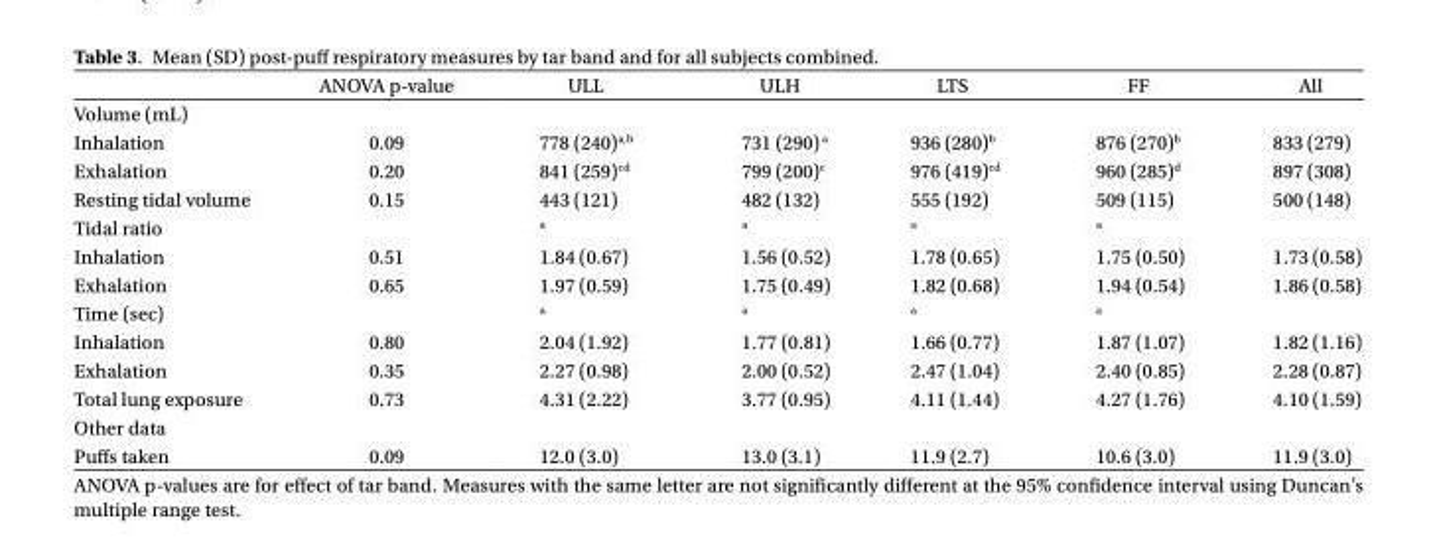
<table><thead><tr><td></td><td>ANOVA p-value</td><td>ULL</td><td>ULH</td><td>LTS</td><td>FF</td><td>All</td></tr></thead><tbody><tr><td colspan="7">Volume (mL)</td></tr><tr><td>Inhalation</td><td>0.09</td><td>778 (240)<sup>a,b</sup></td><td>731 (290) <sup>a</sup></td><td>936 (280)<sup>b</sup></td><td>876 (270)<sup>b</sup></td><td>833 (279)</td></tr><tr><td>Exhalation</td><td>0.20</td><td>841 (259)<sup>cd</sup></td><td>799 (200)<sup>c</sup></td><td>976 (419)<sup>cd</sup></td><td>960 (285)<sup>d</sup></td><td>897 (308)</td></tr><tr><td>Resting tidal volume</td><td>0.15</td><td>443 (121)</td><td>482 (132)</td><td>555 (192)</td><td>509 (115)</td><td>500 (148)</td></tr><tr><td>Tidal ratio</td><td></td><td><sup>a</sup></td><td><sup>a</sup></td><td><sup>a</sup></td><td><sup>a</sup></td><td></td></tr><tr><td>Inhalation</td><td>0.51</td><td>1.84 (0.67)</td><td>1.56 (0.52)</td><td>1.78 (0.65)</td><td>1.75 (0.50)</td><td>1.73 (0.58)</td></tr><tr><td>Exhalation</td><td>0.65</td><td>1.97 (0.59)</td><td>1.75 (0.49)</td><td>1.82 (0.68)</td><td>1.94 (0.54)</td><td>1.86 (0.58)</td></tr><tr><td>Time (sec)</td><td></td><td><sup>a</sup></td><td><sup>a</sup></td><td><sup>a</sup></td><td><sup>a</sup></td><td></td></tr><tr><td>Inhalation</td><td>0.80</td><td>2.04 (1.92)</td><td>1.77 (0.81)</td><td>1.66 (0.77)</td><td>1.87 (1.07)</td><td>1.82 (1.16)</td></tr><tr><td>Exhalation</td><td>0.35</td><td>2.27 (0.98)</td><td>2.00 (0.52)</td><td>2.47 (1.04)</td><td>2.40 (0.85)</td><td>2.28 (0.87)</td></tr><tr><td>Total lung exposure</td><td>0.73</td><td>4.31 (2.22)</td><td>3.77 (0.95)</td><td>4.11 (1.44)</td><td>4.27 (1.76)</td><td>4.10 (1.59)</td></tr><tr><td colspan="7">Other data</td></tr><tr><td>Puffs taken</td><td>0.09</td><td>12.0 (3.0)</td><td>13.0 (3.1)</td><td>11.9 (2.7)</td><td>10.6 (3.0)</td><td>11.9 (3.0)</td></tr></tbody></table>